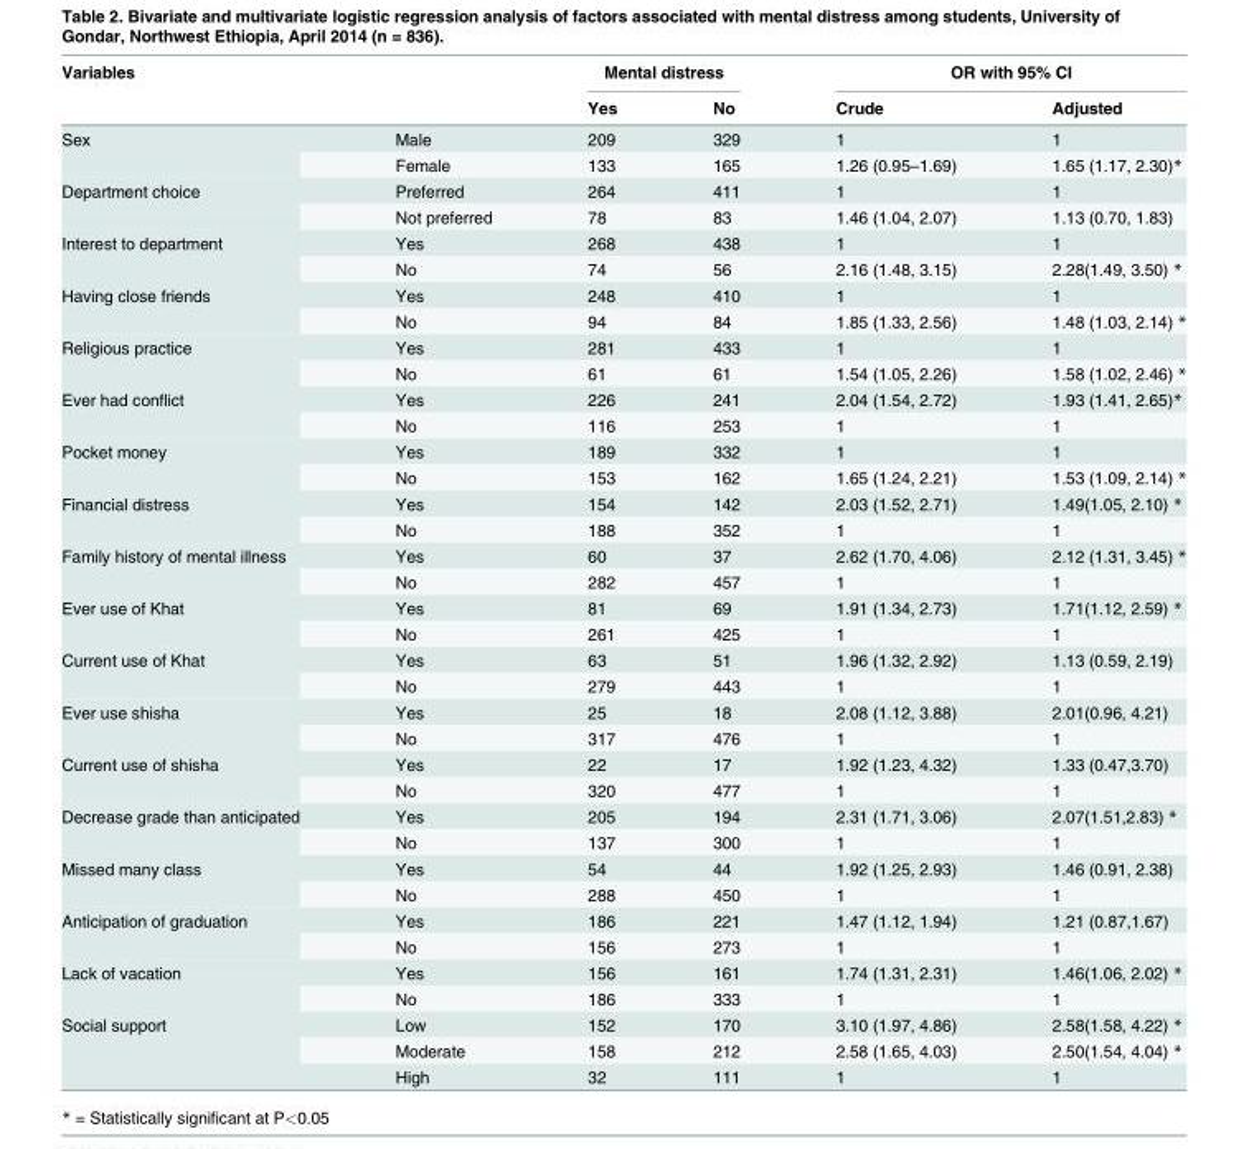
<table><thead><tr><td rowspan="2">Variables</td><td rowspan="2"></td><td colspan="2">Mental distress</td><td colspan="2">OR with 95% CI</td></tr><tr><td>Yes</td><td>No</td><td>Crude</td><td>Adjusted</td></tr></thead><tbody><tr><td rowspan="2">Sex</td><td>Male</td><td>209</td><td>329</td><td>1</td><td>1</td></tr><tr><td>Female</td><td>133</td><td>165</td><td>1.26 (0.95–1.69)</td><td>1.65 (1.17, 2.30)*</td></tr><tr><td rowspan="2">Department choice</td><td>Preferred</td><td>264</td><td>411</td><td>1</td><td>1</td></tr><tr><td>Not preferred</td><td>78</td><td>83</td><td>1.46 (1.04, 2.07)</td><td>1.13 (0.70, 1.83)</td></tr><tr><td rowspan="2">Interest to department</td><td>Yes</td><td>268</td><td>438</td><td>1</td><td>1</td></tr><tr><td>No</td><td>74</td><td>56</td><td>2.16 (1.48, 3.15)</td><td>2.28(1.49, 3.50) *</td></tr><tr><td rowspan="2">Having close friends</td><td>Yes</td><td>248</td><td>410</td><td>1</td><td>1</td></tr><tr><td>No</td><td>94</td><td>84</td><td>1.85 (1.33, 2.56)</td><td>1.48 (1.03, 2.14) *</td></tr><tr><td rowspan="2">Religious practice</td><td>Yes</td><td>281</td><td>433</td><td>1</td><td>1</td></tr><tr><td>No</td><td>61</td><td>61</td><td>1.54 (1.05, 2.26)</td><td>1.58 (1.02, 2.46) *</td></tr><tr><td rowspan="2">Ever had conflict</td><td>Yes</td><td>226</td><td>241</td><td>2.04 (1.54, 2.72)</td><td>1.93 (1.41, 2.65)*</td></tr><tr><td>No</td><td>116</td><td>253</td><td>1</td><td>1</td></tr><tr><td rowspan="2">Pocket money</td><td>Yes</td><td>189</td><td>332</td><td>1</td><td>1</td></tr><tr><td>No</td><td>153</td><td>162</td><td>1.65 (1.24, 2.21)</td><td>1.53 (1.09, 2.14) *</td></tr><tr><td rowspan="2">Financial distress</td><td>Yes</td><td>154</td><td>142</td><td>2.03 (1.52, 2.71)</td><td>1.49(1.05, 2.10) *</td></tr><tr><td>No</td><td>188</td><td>352</td><td>1</td><td>1</td></tr><tr><td rowspan="2">Family history of mental illness</td><td>Yes</td><td>60</td><td>37</td><td>2.62 (1.70, 4.06)</td><td>2.12 (1.31, 3.45) *</td></tr><tr><td>No</td><td>282</td><td>457</td><td>1</td><td>1</td></tr><tr><td rowspan="2">Ever use of Khat</td><td>Yes</td><td>81</td><td>69</td><td>1.91 (1.34, 2.73)</td><td>1.71(1.12, 2.59) *</td></tr><tr><td>No</td><td>261</td><td>425</td><td>1</td><td>1</td></tr><tr><td rowspan="2">Current use of Khat</td><td>Yes</td><td>63</td><td>51</td><td>1.96 (1.32, 2.92)</td><td>1.13 (0.59, 2.19)</td></tr><tr><td>No</td><td>279</td><td>443</td><td>1</td><td>1</td></tr><tr><td rowspan="2">Ever use shisha</td><td>Yes</td><td>25</td><td>18</td><td>2.08 (1.12, 3.88)</td><td>2.01(0.96, 4.21)</td></tr><tr><td>No</td><td>317</td><td>476</td><td>1</td><td>1</td></tr><tr><td rowspan="2">Current use of shisha</td><td>Yes</td><td>22</td><td>17</td><td>1.92 (1.23, 4.32)</td><td>1.33 (0.47,3.70)</td></tr><tr><td>No</td><td>320</td><td>477</td><td>1</td><td>1</td></tr><tr><td rowspan="2">Decrease grade than anticipated</td><td>Yes</td><td>205</td><td>194</td><td>2.31 (1.71, 3.06)</td><td>2.07(1.51,2.83) *</td></tr><tr><td>No</td><td>137</td><td>300</td><td>1</td><td>1</td></tr><tr><td rowspan="2">Missed many class</td><td>Yes</td><td>54</td><td>44</td><td>1.92 (1.25, 2.93)</td><td>1.46 (0.91, 2.38)</td></tr><tr><td>No</td><td>288</td><td>450</td><td>1</td><td>1</td></tr><tr><td rowspan="2">Anticipation of graduation</td><td>Yes</td><td>186</td><td>221</td><td>1.47 (1.12, 1.94)</td><td>1.21 (0.87,1.67)</td></tr><tr><td>No</td><td>156</td><td>273</td><td>1</td><td>1</td></tr><tr><td rowspan="2">Lack of vacation</td><td>Yes</td><td>156</td><td>161</td><td>1.74 (1.31, 2.31)</td><td>1.46(1.06, 2.02) *</td></tr><tr><td>No</td><td>186</td><td>333</td><td>1</td><td>1</td></tr><tr><td rowspan="3">Social support</td><td>Low</td><td>152</td><td>170</td><td>3.10 (1.97, 4.86)</td><td>2.58(1.58, 4.22) *</td></tr><tr><td>Moderate</td><td>158</td><td>212</td><td>2.58 (1.65, 4.03)</td><td>2.50(1.54, 4.04) *</td></tr><tr><td>High</td><td>32</td><td>111</td><td>1</td><td>1</td></tr></tbody></table>